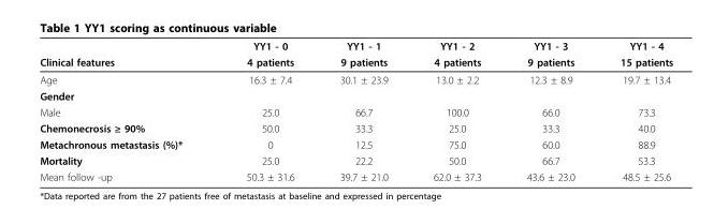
<table><thead><tr><td rowspan="2">Clinical features</td><td rowspan="2">YY1 - 0 4 patients</td><td rowspan="2">YY1 - 1 9 patients</td><td rowspan="2">YY1 - 2 4 patients</td><td rowspan="2">YY1 - 3 9 patients</td><td rowspan="2">YY1 - 4 15 patients</td></tr><tr></tr></thead><tbody><tr><td>Age</td><td>16.3 ± 7.4</td><td>30.1 ± 23.9</td><td>13.0 ± 2.2</td><td>12.3 ± 8.9</td><td>19.7 ± 13.4</td></tr><tr><td colspan="6">Gender</td></tr><tr><td>Male</td><td>25.0</td><td>66.7</td><td>100.0</td><td>66.0</td><td>73.3</td></tr><tr><td>Chemonecrosis ≥ 90%</td><td>50.0</td><td>33.3</td><td>25.0</td><td>33.3</td><td>40.0</td></tr><tr><td>Metachronous metastasis (%)*</td><td>0</td><td>12.5</td><td>75.0</td><td>60.0</td><td>88.9</td></tr><tr><td>Mortality</td><td>25.0</td><td>22.2</td><td>50.0</td><td>66.7</td><td>53.3</td></tr><tr><td>Mean follow -up</td><td>50.3 ± 31.6</td><td>39.7 ± 21.0</td><td>62.0 ± 37.3</td><td>43.6 ± 23.0</td><td>48.5 ± 25.6</td></tr></tbody></table>